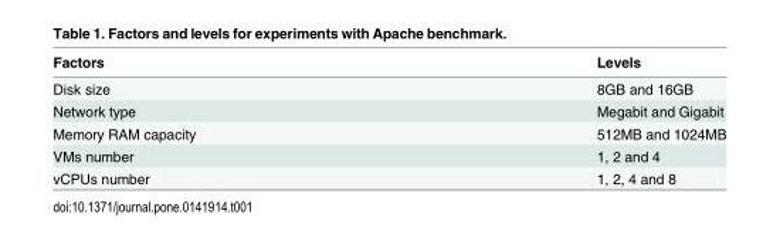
<table><thead><tr><td>Factors</td><td>Levels</td></tr></thead><tbody><tr><td>Disk size</td><td>8GB and 16GB</td></tr><tr><td>Network type</td><td>Megabit and Gigabit</td></tr><tr><td>Memory RAM capacity</td><td>512MB and 1024MB</td></tr><tr><td>VMs number</td><td>1, 2 and 4</td></tr><tr><td>vCPUs number</td><td>1, 2, 4 and 8</td></tr></tbody></table>